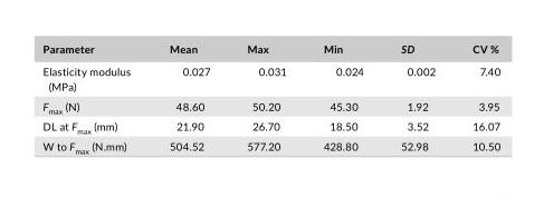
<table><thead><tr><td>Parameter</td><td>Mean</td><td>Max</td><td>Min</td><td>SD</td><td>CV %</td></tr></thead><tbody><tr><td>Elasticity modulus (MPa)</td><td>0.027</td><td>0.031</td><td>0.024</td><td>0.002</td><td>7.40</td></tr><tr><td>F<sub>max</sub> (N)</td><td>48.60</td><td>50.20</td><td>45.30</td><td>1.92</td><td>3.95</td></tr><tr><td>DL at F<sub>max</sub> (mm)</td><td>21.90</td><td>26.70</td><td>18.50</td><td>3.52</td><td>16.07</td></tr><tr><td>W to F<sub>max</sub> (N.mm)</td><td>504.52</td><td>577.20</td><td>428.80</td><td>52.98</td><td>10.50</td></tr></tbody></table>